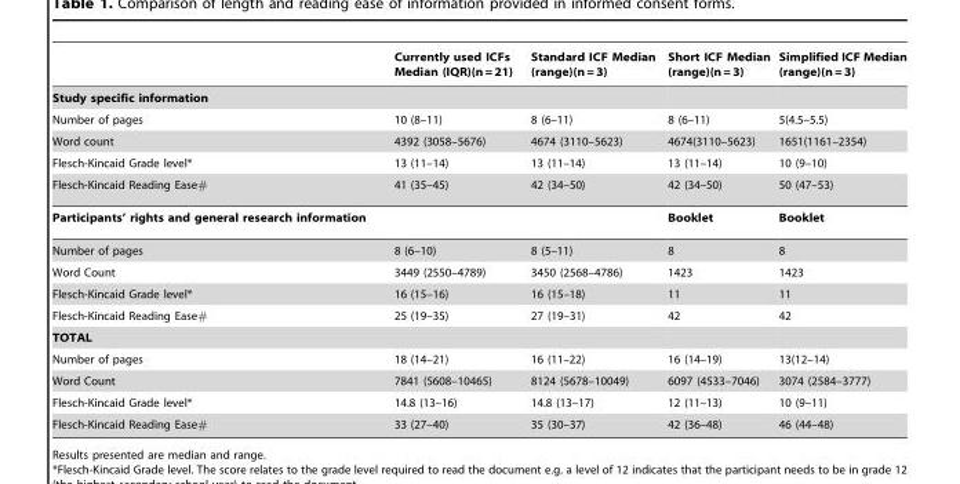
<table><thead><tr><td></td><td>Currently used ICFs Median (IQR)(n = 21)</td><td>Standard ICF Median (range)(n = 3)</td><td>Short ICF Median (range)(n = 3)</td><td>Simplified ICF Median (range)(n = 3)</td></tr></thead><tbody><tr><td colspan="5">Study specific information</td></tr><tr><td>Number of pages</td><td>10 (8–11)</td><td>8 (6–11)</td><td>8 (6–11)</td><td>5(4.5–5.5)</td></tr><tr><td>Word count</td><td>4392 (3058–5676)</td><td>4674 (3110–5623)</td><td>4674(3110–5623)</td><td>1651(1161–2354)</td></tr><tr><td>Flesch-Kincaid Grade level*</td><td>13 (11–14)</td><td>13 (11–14)</td><td>13 (11–14)</td><td>10 (9–10)</td></tr><tr><td>Flesch-Kincaid Reading Ease#</td><td>41 (35–45)</td><td>42 (34–50)</td><td>42 (34–50)</td><td>50 (47–53)</td></tr><tr><td>Participants’ rights and general research information</td><td></td><td></td><td>Booklet</td><td>Booklet</td></tr><tr><td>Number of pages</td><td>8 (6–10)</td><td>8 (5–11)</td><td>8</td><td>8</td></tr><tr><td>Word Count</td><td>3449 (2550–4789)</td><td>3450 (2568–4786)</td><td>1423</td><td>1423</td></tr><tr><td>Flesch-Kincaid Grade level*</td><td>16 (15–16)</td><td>16 (15–18)</td><td>11</td><td>11</td></tr><tr><td>Flesch-Kincaid Reading Ease#</td><td>25 (19–35)</td><td>27 (19–31)</td><td>42</td><td>42</td></tr><tr><td colspan="5">TOTAL</td></tr><tr><td>Number of pages</td><td>18 (14–21)</td><td>16 (11–22)</td><td>16 (14–19)</td><td>13(12–14)</td></tr><tr><td>Word Count</td><td>7841 (5608–10465)</td><td>8124 (5678–10049)</td><td>6097 (4533–7046)</td><td>3074 (2584–3777)</td></tr><tr><td>Flesch-Kincaid Grade level*</td><td>14.8 (13–16)</td><td>14.8 (13–17)</td><td>12 (11–13)</td><td>10 (9–11)</td></tr><tr><td>Flesch-Kincaid Reading Ease#</td><td>33 (27–40)</td><td>35 (30–37)</td><td>42 (36–48)</td><td>46 (44–48)</td></tr></tbody></table>